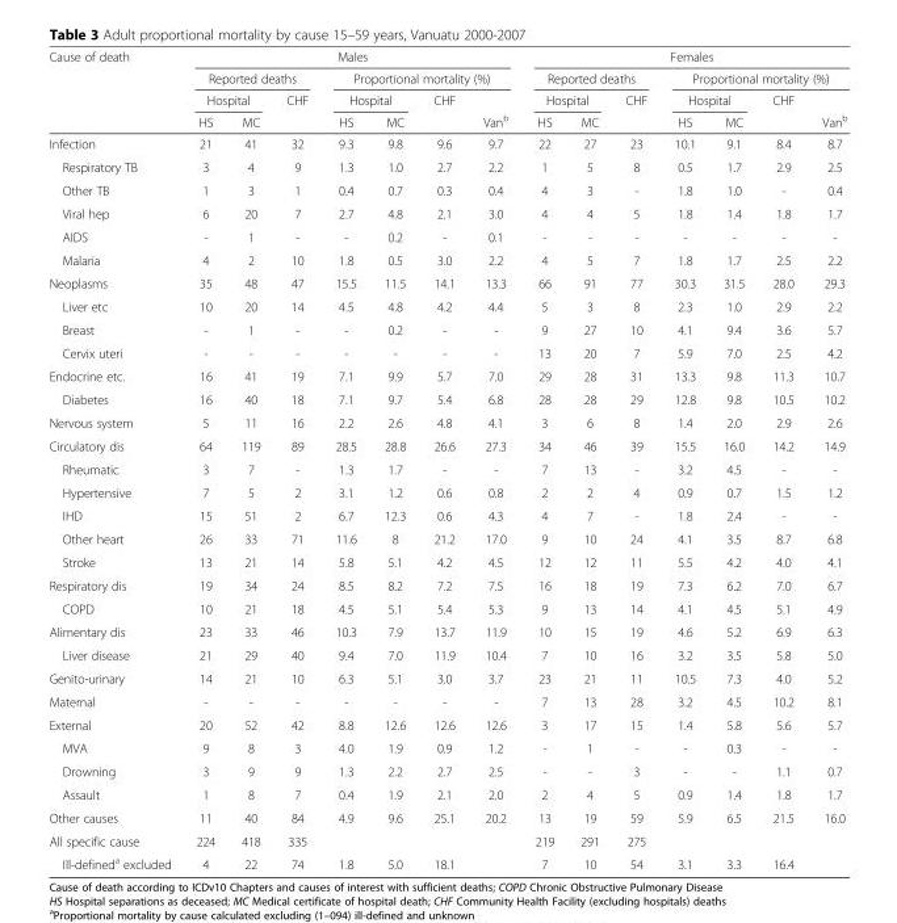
<table><thead><tr><td rowspan="4">Cause of death</td><td colspan="7">Males</td><td colspan="7">Females</td></tr><tr><td colspan="3">Reported deaths</td><td colspan="4">Proportional mortality (%)</td><td colspan="3">Reported deaths</td><td colspan="4">Proportional mortality (%)</td></tr><tr><td colspan="2">Hospital</td><td rowspan="2">CHF</td><td colspan="2">Hospital</td><td rowspan="2">CHF</td><td rowspan="2">Van<sup>b</sup></td><td colspan="2">Hospital</td><td rowspan="2">CHF</td><td colspan="2">Hospital</td><td rowspan="2">CHF</td><td rowspan="2">Van<sup>b</sup></td></tr><tr><td>HS</td><td>MC</td><td>HS</td><td>MC</td><td>HS</td><td>MC</td><td>HS</td><td>MC</td></tr></thead><tbody><tr><td>Infection</td><td>21</td><td>41</td><td>32</td><td>9.3</td><td>9.8</td><td>9.6</td><td>9.7</td><td>22</td><td>27</td><td>23</td><td>10.1</td><td>9.1</td><td>8.4</td><td>8.7</td></tr><tr><td>Respiratory TB</td><td>3</td><td>4</td><td>9</td><td>1.3</td><td>1.0</td><td>2.7</td><td>2.2</td><td>1</td><td>5</td><td>8</td><td>0.5</td><td>1.7</td><td>2.9</td><td>2.5</td></tr><tr><td>Other TB</td><td>1</td><td>3</td><td>1</td><td>0.4</td><td>0.7</td><td>0.3</td><td>0.4</td><td>4</td><td>3</td><td>-</td><td>1.8</td><td>1.0</td><td>-</td><td>0.4</td></tr><tr><td>Viral hep</td><td>6</td><td>20</td><td>7</td><td>2.7</td><td>4.8</td><td>2.1</td><td>3.0</td><td>4</td><td>4</td><td>5</td><td>1.8</td><td>1.4</td><td>1.8</td><td>1.7</td></tr><tr><td>AIDS</td><td>-</td><td>1</td><td>-</td><td>-</td><td>0.2</td><td>-</td><td>0.1</td><td>-</td><td>-</td><td>-</td><td>-</td><td>-</td><td>-</td><td>-</td></tr><tr><td>Malaria</td><td>4</td><td>2</td><td>10</td><td>1.8</td><td>0.5</td><td>3.0</td><td>2.2</td><td>4</td><td>5</td><td>7</td><td>1.8</td><td>1.7</td><td>2.5</td><td>2.2</td></tr><tr><td>Neoplasms</td><td>35</td><td>48</td><td>47</td><td>15.5</td><td>11.5</td><td>14.1</td><td>13.3</td><td>66</td><td>91</td><td>77</td><td>30.3</td><td>31.5</td><td>28.0</td><td>29.3</td></tr><tr><td>Liver etc</td><td>10</td><td>20</td><td>14</td><td>4.5</td><td>4.8</td><td>4.2</td><td>4.4</td><td>5</td><td>3</td><td>8</td><td>2.3</td><td>1.0</td><td>2.9</td><td>2.2</td></tr><tr><td>Breast</td><td>-</td><td>1</td><td>-</td><td>-</td><td>0.2</td><td>-</td><td>-</td><td>9</td><td>27</td><td>10</td><td>4.1</td><td>9.4</td><td>3.6</td><td>5.7</td></tr><tr><td>Cervix uteri</td><td>-</td><td>-</td><td>-</td><td>-</td><td>-</td><td>-</td><td>-</td><td>13</td><td>20</td><td>7</td><td>5.9</td><td>7.0</td><td>2.5</td><td>4.2</td></tr><tr><td>Endocrine etc.</td><td>16</td><td>41</td><td>19</td><td>7.1</td><td>9.9</td><td>5.7</td><td>7.0</td><td>29</td><td>28</td><td>31</td><td>13.3</td><td>9.8</td><td>11.3</td><td>10.7</td></tr><tr><td>Diabetes</td><td>16</td><td>40</td><td>18</td><td>7.1</td><td>9.7</td><td>5.4</td><td>6.8</td><td>28</td><td>28</td><td>29</td><td>12.8</td><td>9.8</td><td>10.5</td><td>10.2</td></tr><tr><td>Nervous system</td><td>5</td><td>11</td><td>16</td><td>2.2</td><td>2.6</td><td>4.8</td><td>4.1</td><td>3</td><td>6</td><td>8</td><td>1.4</td><td>2.0</td><td>2.9</td><td>2.6</td></tr><tr><td>Circulatory dis</td><td>64</td><td>119</td><td>89</td><td>28.5</td><td>28.8</td><td>26.6</td><td>27.3</td><td>34</td><td>46</td><td>39</td><td>15.5</td><td>16.0</td><td>14.2</td><td>14.9</td></tr><tr><td>Rheumatic</td><td>3</td><td>7</td><td>-</td><td>1.3</td><td>1.7</td><td>-</td><td>-</td><td>7</td><td>13</td><td>-</td><td>3.2</td><td>4.5</td><td>-</td><td>-</td></tr><tr><td>Hypertensive</td><td>7</td><td>5</td><td>2</td><td>3.1</td><td>1.2</td><td>0.6</td><td>0.8</td><td>2</td><td>2</td><td>4</td><td>0.9</td><td>0.7</td><td>1.5</td><td>1.2</td></tr><tr><td>IHD</td><td>15</td><td>51</td><td>2</td><td>6.7</td><td>12.3</td><td>0.6</td><td>4.3</td><td>4</td><td>7</td><td>-</td><td>1.8</td><td>2.4</td><td>-</td><td>-</td></tr><tr><td>Other heart</td><td>26</td><td>33</td><td>71</td><td>11.6</td><td>8</td><td>21.2</td><td>17.0</td><td>9</td><td>10</td><td>24</td><td>4.1</td><td>3.5</td><td>8.7</td><td>6.8</td></tr><tr><td>Stroke</td><td>13</td><td>21</td><td>14</td><td>5.8</td><td>5.1</td><td>4.2</td><td>4.5</td><td>12</td><td>12</td><td>11</td><td>5.5</td><td>4.2</td><td>4.0</td><td>4.1</td></tr><tr><td>Respiratory dis</td><td>19</td><td>34</td><td>24</td><td>8.5</td><td>8.2</td><td>7.2</td><td>7.5</td><td>16</td><td>18</td><td>19</td><td>7.3</td><td>6.2</td><td>7.0</td><td>6.7</td></tr><tr><td>COPD</td><td>10</td><td>21</td><td>18</td><td>4.5</td><td>5.1</td><td>5.4</td><td>5.3</td><td>9</td><td>13</td><td>14</td><td>4.1</td><td>4.5</td><td>5.1</td><td>4.9</td></tr><tr><td>Alimentary dis</td><td>23</td><td>33</td><td>46</td><td>10.3</td><td>7.9</td><td>13.7</td><td>11.9</td><td>10</td><td>15</td><td>19</td><td>4.6</td><td>5.2</td><td>6.9</td><td>6.3</td></tr><tr><td>Liver disease</td><td>21</td><td>29</td><td>40</td><td>9.4</td><td>7.0</td><td>11.9</td><td>10.4</td><td>7</td><td>10</td><td>16</td><td>3.2</td><td>3.5</td><td>5.8</td><td>5.0</td></tr><tr><td>Genito-urinary</td><td>14</td><td>21</td><td>10</td><td>6.3</td><td>5.1</td><td>3.0</td><td>3.7</td><td>23</td><td>21</td><td>11</td><td>10.5</td><td>7.3</td><td>4.0</td><td>5.2</td></tr><tr><td>Maternal</td><td>-</td><td>-</td><td>-</td><td>-</td><td>-</td><td>-</td><td>-</td><td>7</td><td>13</td><td>28</td><td>3.2</td><td>4.5</td><td>10.2</td><td>8.1</td></tr><tr><td>External</td><td>20</td><td>52</td><td>42</td><td>8.8</td><td>12.6</td><td>12.6</td><td>12.6</td><td>3</td><td>17</td><td>15</td><td>1.4</td><td>5.8</td><td>5.6</td><td>5.7</td></tr><tr><td>MVA</td><td>9</td><td>8</td><td>3</td><td>4.0</td><td>1.9</td><td>0.9</td><td>1.2</td><td>-</td><td>1</td><td>-</td><td>-</td><td>0.3</td><td>-</td><td>-</td></tr><tr><td>Drowning</td><td>3</td><td>9</td><td>9</td><td>1.3</td><td>2.2</td><td>2.7</td><td>2.5</td><td>-</td><td>-</td><td>3</td><td>-</td><td>-</td><td>1.1</td><td>0.7</td></tr><tr><td>Assault</td><td>1</td><td>8</td><td>7</td><td>0.4</td><td>1.9</td><td>2.1</td><td>2.0</td><td>2</td><td>4</td><td>5</td><td>0.9</td><td>1.4</td><td>1.8</td><td>1.7</td></tr><tr><td>Other causes</td><td>11</td><td>40</td><td>84</td><td>4.9</td><td>9.6</td><td>25.1</td><td>20.2</td><td>13</td><td>19</td><td>59</td><td>5.9</td><td>6.5</td><td>21.5</td><td>16.0</td></tr><tr><td>All specific cause</td><td>224</td><td>418</td><td>335</td><td></td><td></td><td></td><td></td><td>219</td><td>291</td><td>275</td><td></td><td></td><td></td><td></td></tr><tr><td>Ill-defined<sup>a</sup> excluded</td><td>4</td><td>22</td><td>74</td><td>1.8</td><td>5.0</td><td>18.1</td><td></td><td>7</td><td>10</td><td>54</td><td>3.1</td><td>3.3</td><td>16.4</td><td></td></tr></tbody></table>